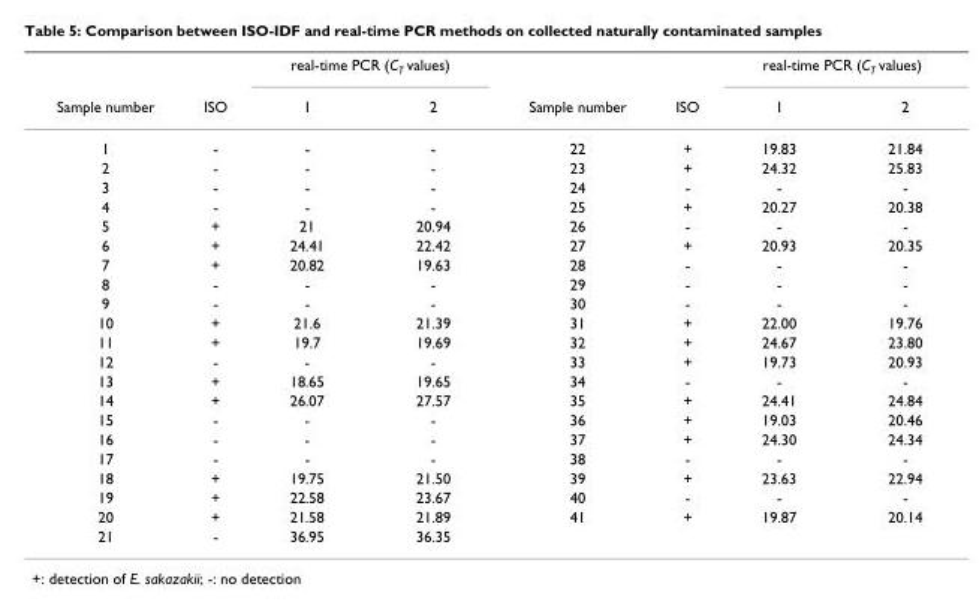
<table><thead><tr><td rowspan="2">Sample number</td><td rowspan="2">ISO</td><td colspan="2">real-time PCR (CT values)</td><td rowspan="2">Sample number</td><td rowspan="2">ISO</td><td colspan="2">real-time PCR (CT values)</td></tr><tr><td>1</td><td>2</td><td>1</td><td>2</td></tr></thead><tbody><tr><td>1</td><td>-</td><td>-</td><td>-</td><td>22</td><td>+</td><td>19.83</td><td>21.84</td></tr><tr><td>2</td><td>-</td><td>-</td><td>-</td><td>23</td><td>+</td><td>24.32</td><td>25.83</td></tr><tr><td>3</td><td>-</td><td>-</td><td>-</td><td>24</td><td>-</td><td>-</td><td>-</td></tr><tr><td>4</td><td>-</td><td>-</td><td>-</td><td>25</td><td>+</td><td>20.27</td><td>20.38</td></tr><tr><td>5</td><td>+</td><td>21</td><td>20.94</td><td>26</td><td>-</td><td>-</td><td>-</td></tr><tr><td>6</td><td>+</td><td>24.41</td><td>22.42</td><td>27</td><td>+</td><td>20.93</td><td>20.35</td></tr><tr><td>7</td><td>+</td><td>20.82</td><td>19.63</td><td>28</td><td>-</td><td>-</td><td>-</td></tr><tr><td>8</td><td>-</td><td>-</td><td>-</td><td>29</td><td>-</td><td>-</td><td>-</td></tr><tr><td>9</td><td>-</td><td>-</td><td>-</td><td>30</td><td>-</td><td>-</td><td>-</td></tr><tr><td>10</td><td>+</td><td>21.6</td><td>21.39</td><td>31</td><td>+</td><td>22.00</td><td>19.76</td></tr><tr><td>11</td><td>+</td><td>19.7</td><td>19.69</td><td>32</td><td>+</td><td>24.67</td><td>23.80</td></tr><tr><td>12</td><td>-</td><td>-</td><td>-</td><td>33</td><td>+</td><td>19.73</td><td>20.93</td></tr><tr><td>13</td><td>+</td><td>18.65</td><td>19.65</td><td>34</td><td>-</td><td>-</td><td>-</td></tr><tr><td>14</td><td>+</td><td>26.07</td><td>27.57</td><td>35</td><td>+</td><td>24.41</td><td>24.84</td></tr><tr><td>15</td><td>-</td><td>-</td><td>-</td><td>36</td><td>+</td><td>19.03</td><td>20.46</td></tr><tr><td>16</td><td>-</td><td>-</td><td>-</td><td>37</td><td>+</td><td>24.30</td><td>24.34</td></tr><tr><td>17</td><td>-</td><td>-</td><td>-</td><td>38</td><td>-</td><td>-</td><td>-</td></tr><tr><td>18</td><td>+</td><td>19.75</td><td>21.50</td><td>39</td><td>+</td><td>23.63</td><td>22.94</td></tr><tr><td>19</td><td>+</td><td>22.58</td><td>23.67</td><td>40</td><td>-</td><td>-</td><td>-</td></tr><tr><td>20</td><td>+</td><td>21.58</td><td>21.89</td><td>41</td><td>+</td><td>19.87</td><td>20.14</td></tr><tr><td>21</td><td>-</td><td>36.95</td><td>36.35</td><td></td><td></td><td></td><td></td></tr></tbody></table>